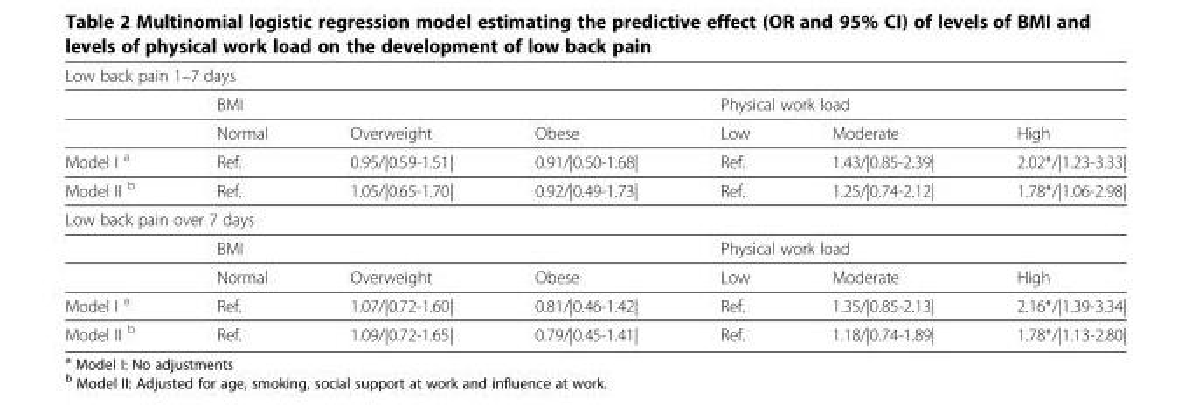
<table><tbody><tr><td colspan="7">Low back pain 1–7 days</td></tr><tr><td></td><td colspan="3">BMI</td><td colspan="3">Physical work load</td></tr><tr><td></td><td>Normal</td><td>Overweight</td><td>Obese</td><td>Low</td><td>Moderate</td><td>High</td></tr><tr><td>Model I <sup>a</sup></td><td>Ref.</td><td>0.95/|0.59-1.51|</td><td>0.91/|0.50-1.68|</td><td>Ref.</td><td>1.43/|0.85-2.39|</td><td>2.02*/|1.23-3.33|</td></tr><tr><td>Model II <sup>b</sup></td><td>Ref.</td><td>1.05/|0.65-1.70|</td><td>0.92/|0.49-1.73|</td><td>Ref.</td><td>1.25/|0.74-2.12|</td><td>1.78*/|1.06-2.98|</td></tr><tr><td colspan="7">Low back pain over 7 days</td></tr><tr><td></td><td colspan="3">BMI</td><td colspan="3">Physical work load</td></tr><tr><td></td><td>Normal</td><td>Overweight</td><td>Obese</td><td>Low</td><td>Moderate</td><td>High</td></tr><tr><td>Model I <sup>a</sup></td><td>Ref.</td><td>1.07/|0.72-1.60|</td><td>0.81/|0.46-1.42|</td><td>Ref.</td><td>1.35/|0.85-2.13|</td><td>2.16*/|1.39-3.34|</td></tr><tr><td>Model II <sup>b</sup></td><td>Ref.</td><td>1.09/|0.72-1.65|</td><td>0.79/|0.45-1.41|</td><td>Ref.</td><td>1.18/|0.74-1.89|</td><td>1.78*/|1.13-2.80|</td></tr></tbody></table>